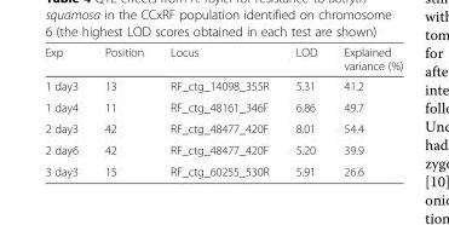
<table><thead><tr><td>Exp</td><td>Position</td><td>Locus</td><td>LOD</td><td>Explained variance (%)</td></tr></thead><tbody><tr><td>1 day3</td><td>13</td><td>RF_ctg_14098_355R</td><td>5.31</td><td>41.2</td></tr><tr><td>1 day4</td><td>11</td><td>RF_ctg_48161_346F</td><td>6.86</td><td>49.7</td></tr><tr><td>2 day3</td><td>42</td><td>RF_ctg_48477_420F</td><td>8.01</td><td>54.4</td></tr><tr><td>2 day6</td><td>42</td><td>RF_ctg_48477_420F</td><td>5.20</td><td>39.9</td></tr><tr><td>3 day3</td><td>15</td><td>RF_ctg_60255_530R</td><td>5.91</td><td>26.6</td></tr></tbody></table>